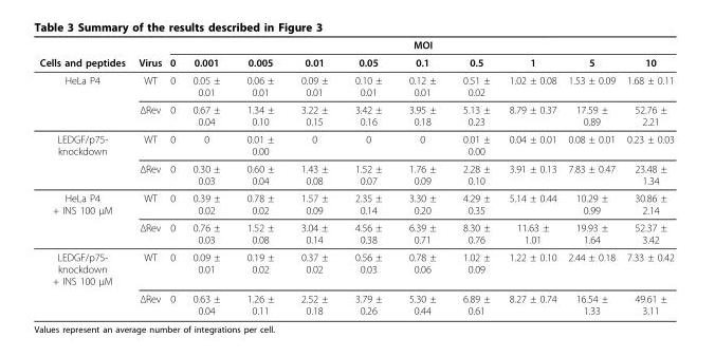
<table><thead><tr><td rowspan="2">Cells and peptides</td><td rowspan="2">Virus</td><td colspan="10">MOI</td></tr><tr><td>0</td><td>0.001</td><td>0.005</td><td>0.01</td><td>0.05</td><td>0.1</td><td>0.5</td><td>1</td><td>5</td><td>10</td></tr></thead><tbody><tr><td rowspan="2">HeLa P4</td><td>WT</td><td>0</td><td>0.05 ± 0.01</td><td>0.06 ± 0.01</td><td>0.09 ± 0.01</td><td>0.10 ± 0.01</td><td>0.12 ± 0.01</td><td>0.51 ± 0.02</td><td>1.02 ± 0.08</td><td>1.53 ± 0.09</td><td>1.68 ± 0.11</td></tr><tr><td>ΔRev</td><td>0</td><td>0.67 ± 0.04</td><td>1.34 ± 0.10</td><td>3.22 ± 0.15</td><td>3.42 ± 0.16</td><td>3.95 ± 0.18</td><td>5.13 ± 0.23</td><td>8.79 ± 0.37</td><td>17.59 ± 0.89</td><td>52.76 ± 2.21</td></tr><tr><td rowspan="2">LEDGF/p75- knockdown</td><td>WT</td><td>0</td><td>0</td><td>0.01 ± 0.00</td><td>0</td><td>0</td><td>0</td><td>0.01 ± 0.00</td><td>0.04 ± 0.01</td><td>0.08 ± 0.01</td><td>0.23 ± 0.03</td></tr><tr><td>ΔRev</td><td>0</td><td>0.30 ± 0.03</td><td>0.60 ± 0.04</td><td>1.43 ± 0.08</td><td>1.52 ± 0.07</td><td>1.76 ± 0.09</td><td>2.28 ± 0.10</td><td>3.91 ± 0.13</td><td>7.83 ± 0.47</td><td>23.48 ± 1.34</td></tr><tr><td rowspan="2">HeLa P4 + INS 100 μM</td><td>WT</td><td>0</td><td>0.39 ± 0.02</td><td>0.78 ± 0.02</td><td>1.57 ± 0.09</td><td>2.35 ± 0.14</td><td>3.30 ± 0.20</td><td>4.29 ± 0.35</td><td>5.14 ± 0.44</td><td>10.29 ± 0.99</td><td>30.86 ± 2.14</td></tr><tr><td>ΔRev</td><td>0</td><td>0.76 ± 0.03</td><td>1.52 ± 0.08</td><td>3.04 ± 0.14</td><td>4.56 ± 0.38</td><td>6.39 ± 0.71</td><td>8.30 ± 0.76</td><td>11.63 ± 1.01</td><td>19.93 ± 1.64</td><td>52.37 ± 3.42</td></tr><tr><td rowspan="2">LEDGF/p75- knockdown + INS 100 μM</td><td>WT</td><td>0</td><td>0.09 ± 0.01</td><td>0.19 ± 0.02</td><td>0.37 ± 0.02</td><td>0.56 ± 0.03</td><td>0.78 ± 0.06</td><td>1.02 ± 0.09</td><td>1.22 ± 0.10</td><td>2.44 ± 0.18</td><td>7.33 ± 0.42</td></tr><tr><td>ΔRev</td><td>0</td><td>0.63 ± 0.04</td><td>1.26 ± 0.11</td><td>2.52 ± 0.18</td><td>3.79 ± 0.26</td><td>5.30 ± 0.44</td><td>6.89 ± 0.61</td><td>8.27 ± 0.74</td><td>16.54 ± 1.33</td><td>49.61 ± 3.11</td></tr></tbody></table>